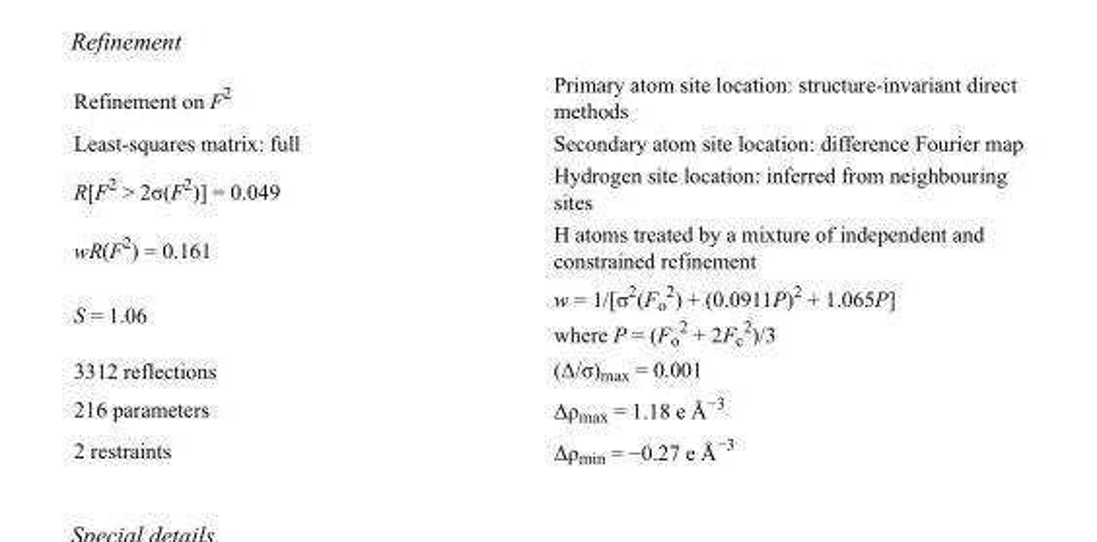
<table><tbody><tr><td>Refinement on F<sup>2</sup></td><td>Primary atom site location: structure-invariant direct methods</td></tr><tr><td>Least-squares matrix: full</td><td>Secondary atom site location: difference Fourier map</td></tr><tr><td>R[F<sup>2</sup> &gt; 2σ(F<sup>2</sup>)] = 0.049</td><td>Hydrogen site location: inferred from neighbouring sites</td></tr><tr><td>wR(F<sup>2</sup>) = 0.161</td><td>H atoms treated by a mixture of independent and constrained refinement</td></tr><tr><td>S = 1.06</td><td>w = 1/[σ<sup>2</sup>(F<sub>o</sub> <sup>2</sup>) + (0.0911P)<sup>2</sup> + 1.065P] where P = (F<sub>o</sub> <sup>2</sup> + 2F<sub>c</sub> <sup>2</sup>)/3</td></tr><tr><td>3312 reflections</td><td>(Δ/σ)<sub>max</sub> = 0.001</td></tr><tr><td>216 parameters</td><td>Δρ<sub>max</sub> = 1.18 e Å<sup>−3</sup></td></tr><tr><td>2 restraints</td><td>Δρ<sub>min</sub> = −0.27 e Å<sup>−3</sup></td></tr></tbody></table>